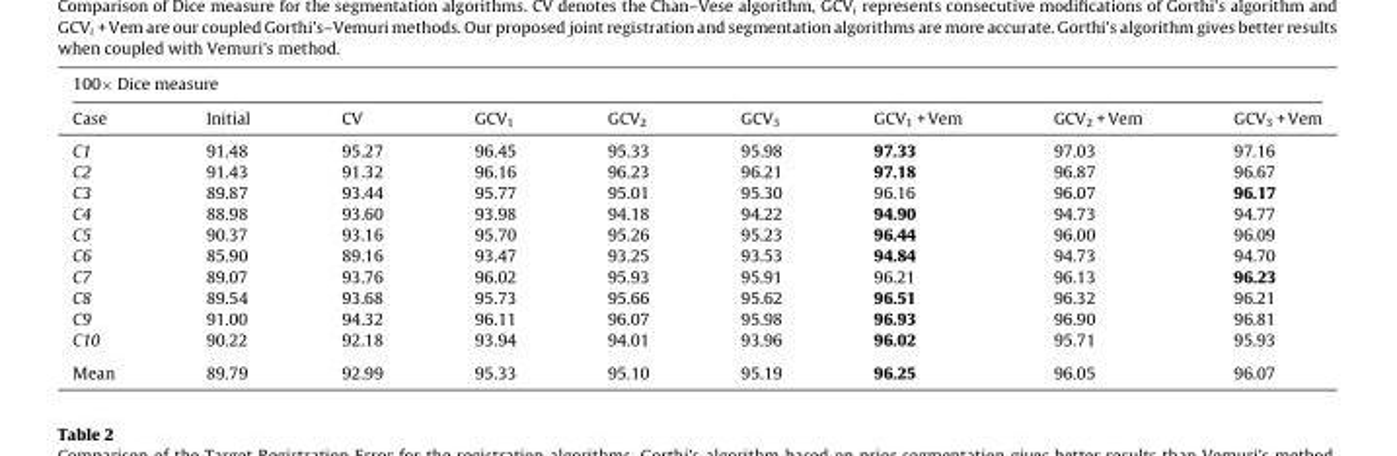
<table><thead><tr><td colspan="9">100× Dice measure</td></tr><tr><td>Case</td><td>Initial</td><td>CV</td><td>GCV1</td><td>GCV2</td><td>GCV3</td><td>GCV1 + Vem</td><td>GCV2 + Vem</td><td>GCV3 + Vem</td></tr></thead><tbody><tr><td>C1</td><td>91.48</td><td>95.27</td><td>96.45</td><td>95.33</td><td>95.98</td><td>97.33</td><td>97.03</td><td>97.16</td></tr><tr><td>C2</td><td>91.43</td><td>91.32</td><td>96.16</td><td>96.23</td><td>96.21</td><td>97.18</td><td>96.87</td><td>96.67</td></tr><tr><td>C3</td><td>89.87</td><td>93.44</td><td>95.77</td><td>95.01</td><td>95.30</td><td>96.16</td><td>96.07</td><td>96.17</td></tr><tr><td>C4</td><td>88.98</td><td>93.60</td><td>93.98</td><td>94.18</td><td>94.22</td><td>94.90</td><td>94.73</td><td>94.77</td></tr><tr><td>C5</td><td>90.37</td><td>93.16</td><td>95.70</td><td>95.26</td><td>95.23</td><td>96.44</td><td>96.00</td><td>96.09</td></tr><tr><td>C6</td><td>85.90</td><td>89.16</td><td>93.47</td><td>93.25</td><td>93.53</td><td>94.84</td><td>94.73</td><td>94.70</td></tr><tr><td>C7</td><td>89.07</td><td>93.76</td><td>96.02</td><td>95.93</td><td>95.91</td><td>96.21</td><td>96.13</td><td>96.23</td></tr><tr><td>C8</td><td>89.54</td><td>93.68</td><td>95.73</td><td>95.66</td><td>95.62</td><td>96.51</td><td>96.32</td><td>96.21</td></tr><tr><td>C9</td><td>91.00</td><td>94.32</td><td>96.11</td><td>96.07</td><td>95.98</td><td>96.93</td><td>96.90</td><td>96.81</td></tr><tr><td>C10</td><td>90.22</td><td>92.18</td><td>93.94</td><td>94.01</td><td>93.96</td><td>96.02</td><td>95.71</td><td>95.93</td></tr><tr><td>Mean</td><td>89.79</td><td>92.99</td><td>95.33</td><td>95.10</td><td>95.19</td><td>96.25</td><td>96.05</td><td>96.07</td></tr></tbody></table>